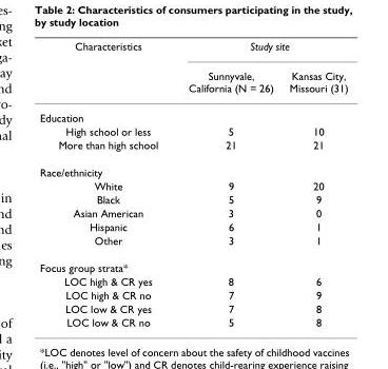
<table><thead><tr><td rowspan="2">Characteristics</td><td colspan="2">Study site</td></tr><tr><td>Sunnyvale, California (N = 26)</td><td>Kansas City, Missouri (31)</td></tr></thead><tbody><tr><td colspan="3">Education</td></tr><tr><td>High school or less</td><td>5</td><td>10</td></tr><tr><td>More than high school</td><td>21</td><td>21</td></tr><tr><td colspan="3">Race/ethnicity</td></tr><tr><td>White</td><td>9</td><td>20</td></tr><tr><td>Black</td><td>5</td><td>9</td></tr><tr><td>Asian American</td><td>3</td><td>0</td></tr><tr><td>Hispanic</td><td>6</td><td>1</td></tr><tr><td>Other</td><td>3</td><td>1</td></tr><tr><td colspan="3">Focus group strata*</td></tr><tr><td>LOC high &amp; CR yes</td><td>8</td><td>6</td></tr><tr><td>LOC high &amp; CR no</td><td>7</td><td>9</td></tr><tr><td>LOC low &amp; CR yes</td><td>7</td><td>8</td></tr><tr><td>LOC low &amp; CR no</td><td>5</td><td>8</td></tr></tbody></table>